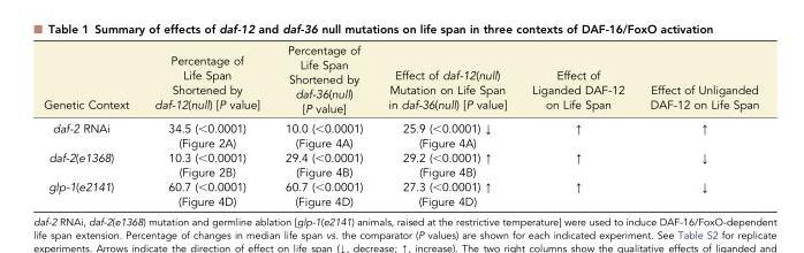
<table><thead><tr><td>Genetic Context</td><td>Percentage of Life Span Shortened by daf-12(null) [P value]</td><td>Percentage of Life Span Shortened by daf-36(null) [P value]</td><td>Effect of daf-12(null) Mutation on Life Span in daf-36(null) [P value]</td><td>Effect of Liganded DAF-12 on Life Span</td><td>Effect of Unliganded DAF-12 on Life Span</td></tr></thead><tbody><tr><td rowspan="2">daf-2 RNAi</td><td>34.5 (&lt;0.0001)</td><td>10.0 (&lt;0.0001)</td><td>25.9 (&lt;0.0001) ↓</td><td rowspan="2">↑</td><td rowspan="2">↑</td></tr><tr><td>(Figure 2A)</td><td>(Figure 4A)</td><td>(Figure 4A)</td></tr><tr><td rowspan="2">daf-2(e1368)</td><td>10.3 (&lt;0.0001)</td><td>29.4 (&lt;0.0001)</td><td>29.2 (&lt;0.0001) ↑</td><td rowspan="2">↑</td><td rowspan="2">↓</td></tr><tr><td>(Figure 2B)</td><td>(Figure 4B)</td><td>(Figure 4B)</td></tr><tr><td rowspan="2">glp-1(e2141)</td><td>60.7 (&lt;0.0001)</td><td>60.7 (&lt;0.0001)</td><td>27.3 (&lt;0.0001) ↑</td><td rowspan="2">↑</td><td rowspan="2">↓</td></tr><tr><td>(Figure 4D)</td><td>(Figure 4D)</td><td>(Figure 4D)</td></tr></tbody></table>